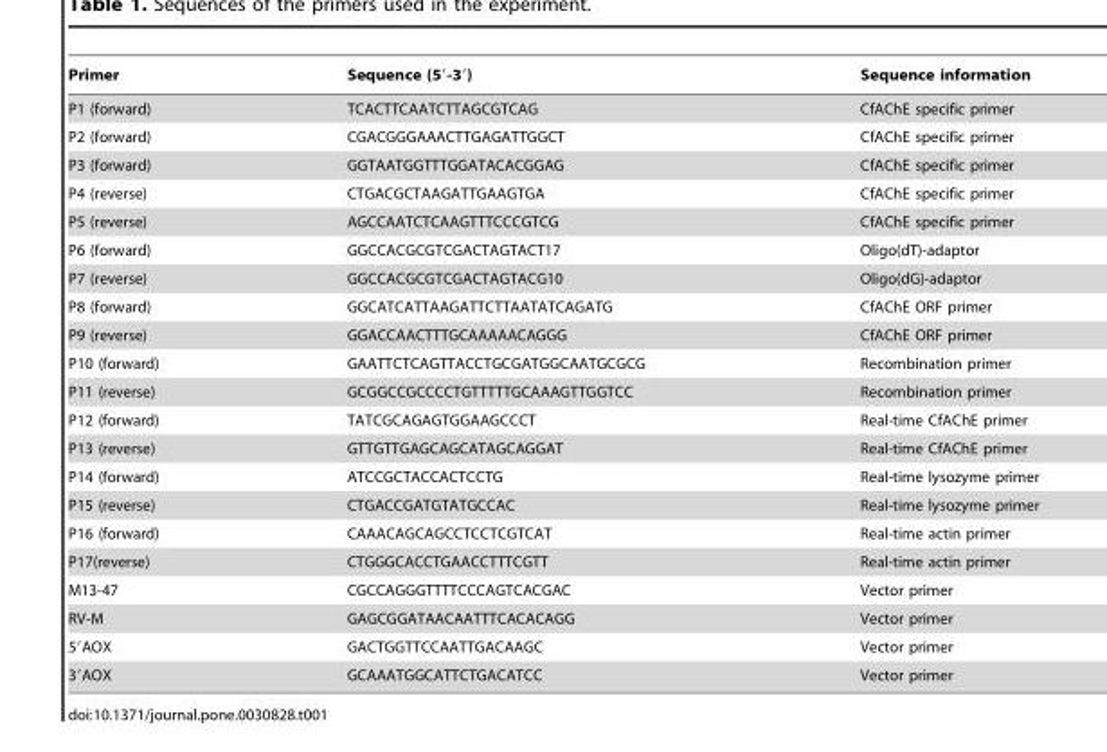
<table><thead><tr><td>Primer</td><td>Sequence (5′-3′)</td><td>Sequence information</td></tr></thead><tbody><tr><td>P1 (forward)</td><td>TCACTTCAATCTTAGCGTCAG</td><td>CfAChE specific primer</td></tr><tr><td>P2 (forward)</td><td>CGACGGGAAACTTGAGATTGGCT</td><td>CfAChE specific primer</td></tr><tr><td>P3 (forward)</td><td>GGTAATGGTTTGGATACACGGAG</td><td>CfAChE specific primer</td></tr><tr><td>P4 (reverse)</td><td>CTGACGCTAAGATTGAAGTGA</td><td>CfAChE specific primer</td></tr><tr><td>P5 (reverse)</td><td>AGCCAATCTCAAGTTTCCCGTCG</td><td>CfAChE specific primer</td></tr><tr><td>P6 (forward)</td><td>GGCCACGCGTCGACTAGTACT17</td><td>Oligo(dT)-adaptor</td></tr><tr><td>P7 (reverse)</td><td>GGCCACGCGTCGACTAGTACG10</td><td>Oligo(dG)-adaptor</td></tr><tr><td>P8 (forward)</td><td>GGCATCATTAAGATTCTTAATATCAGATG</td><td>CfAChE ORF primer</td></tr><tr><td>P9 (reverse)</td><td>GGACCAACTTTGCAAAAACAGGG</td><td>CfAChE ORF primer</td></tr><tr><td>P10 (forward)</td><td>GAATTCTCAGTTACCTGCGATGGCAATGCGCG</td><td>Recombination primer</td></tr><tr><td>P11 (reverse)</td><td>GCGGCCGCCCCTGTTTTTGCAAAGTTGGTCC</td><td>Recombination primer</td></tr><tr><td>P12 (forward)</td><td>TATCGCAGAGTGGAAGCCCT</td><td>Real-time CfAChE primer</td></tr><tr><td>P13 (reverse)</td><td>GTTGTTGAGCAGCATAGCAGGAT</td><td>Real-time CfAChE primer</td></tr><tr><td>P14 (forward)</td><td>ATCCGCTACCACTCCTG</td><td>Real-time lysozyme primer</td></tr><tr><td>P15 (reverse)</td><td>CTGACCGATGTATGCCAC</td><td>Real-time lysozyme primer</td></tr><tr><td>P16 (forward)</td><td>CAAACAGCAGCCTCCTCGTCAT</td><td>Real-time actin primer</td></tr><tr><td>P17(reverse)</td><td>CTGGGCACCTGAACCTTTCGTT</td><td>Real-time actin primer</td></tr><tr><td>M13-47</td><td>CGCCAGGGTTTTCCCAGTCACGAC</td><td>Vector primer</td></tr><tr><td>RV-M</td><td>GAGCGGATAACAATTTCACACAGG</td><td>Vector primer</td></tr><tr><td>5′AOX</td><td>GACTGGTTCCAATTGACAAGC</td><td>Vector primer</td></tr><tr><td>3′AOX</td><td>GCAAATGGCATTCTGACATCC</td><td>Vector primer</td></tr></tbody></table>